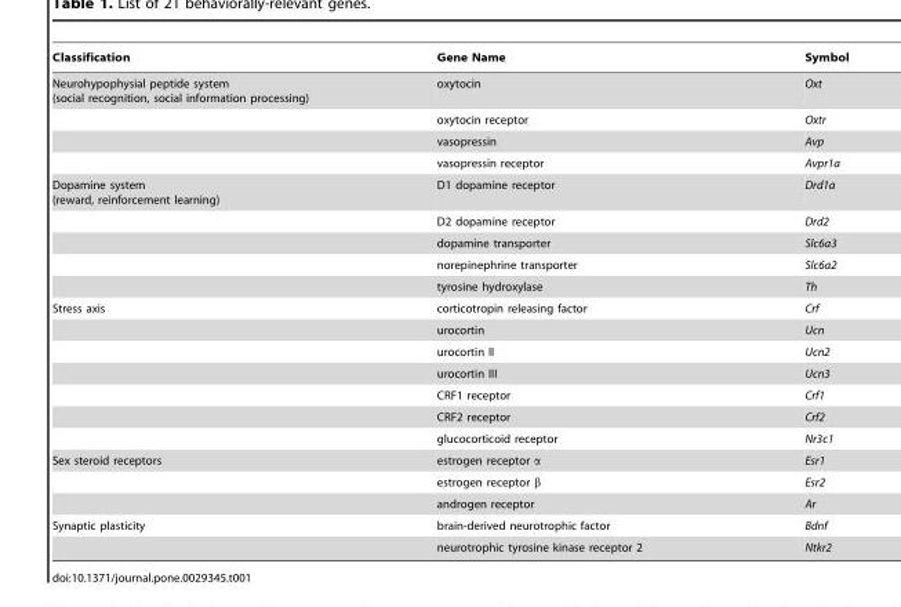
<table><thead><tr><td>Classification</td><td>Gene Name</td><td>Symbol</td></tr></thead><tbody><tr><td rowspan="4">Neurohypophysial peptide system (social recognition, social information processing)</td><td>oxytocin</td><td>Oxt</td></tr><tr><td>oxytocin receptor</td><td>Oxtr</td></tr><tr><td>vasopressin</td><td>Avp</td></tr><tr><td>vasopressin receptor</td><td>Avpr1a</td></tr><tr><td rowspan="5">Dopamine system (reward, reinforcement learning)</td><td>D1 dopamine receptor</td><td>Drd1a</td></tr><tr><td>D2 dopamine receptor</td><td>Drd2</td></tr><tr><td>dopamine transporter</td><td>Slc6a3</td></tr><tr><td>norepinephrine transporter</td><td>Slc6a2</td></tr><tr><td>tyrosine hydroxylase</td><td>Th</td></tr><tr><td rowspan="7">Stress axis</td><td>corticotropin releasing factor</td><td>Crf</td></tr><tr><td>urocortin</td><td>Ucn</td></tr><tr><td>urocortin II</td><td>Ucn2</td></tr><tr><td>urocortin III</td><td>Ucn3</td></tr><tr><td>CRF1 receptor</td><td>Crf1</td></tr><tr><td>CRF2 receptor</td><td>Crf2</td></tr><tr><td>glucocorticoid receptor</td><td>Nr3c1</td></tr><tr><td rowspan="3">Sex steroid receptors</td><td>estrogen receptor α</td><td>Esr1</td></tr><tr><td>estrogen receptor β</td><td>Esr2</td></tr><tr><td>androgen receptor</td><td>Ar</td></tr><tr><td rowspan="2">Synaptic plasticity</td><td>brain-derived neurotrophic factor</td><td>Bdnf</td></tr><tr><td>neurotrophic tyrosine kinase receptor 2</td><td>Ntkr2</td></tr></tbody></table>